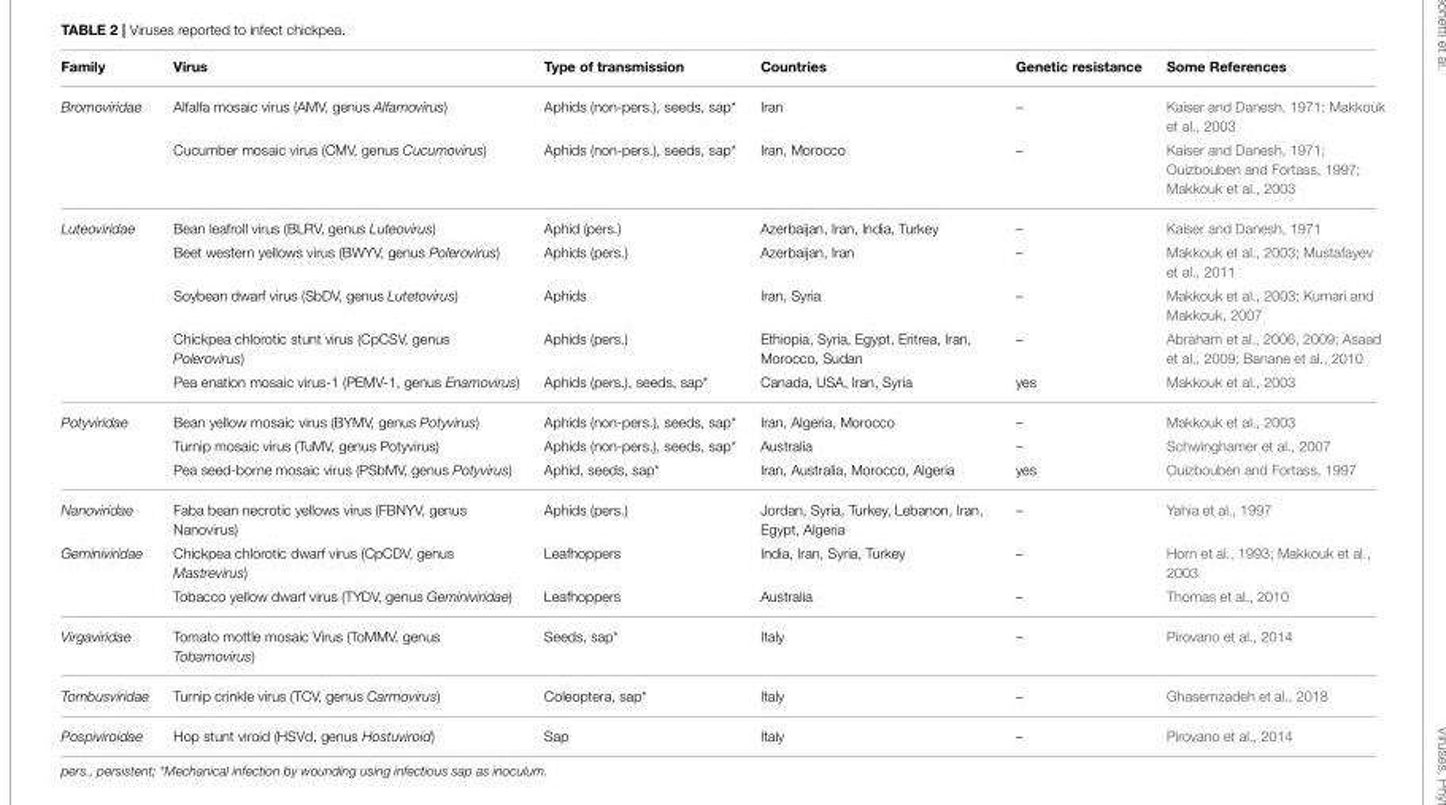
<table><thead><tr><td>Family</td><td>Virus</td><td>Type of transmission</td><td>Countries</td><td>Genetic resistance</td><td>Some References</td></tr></thead><tbody><tr><td rowspan="2">Bromoviridae</td><td>Alfalfa mosaic virus (AMV, genus Alfamovirus)</td><td>Aphids (non-pers.), seeds, sap*</td><td>Iran</td><td>–</td><td>Kaiser and Danesh, 1971; Makkouk et al., 2003</td></tr><tr><td>Cucumber mosaic virus (CMV, genus Cucumovirus)</td><td>Aphids (non-pers.), seeds, sap*</td><td>Iran, Morocco</td><td>–</td><td>Kaiser and Danesh, 1971; Ouizbouben and Fortass, 1997; Makkouk et al., 2003</td></tr><tr><td rowspan="5">Luteoviridae</td><td>Bean leafroll virus (BLRV, genus Luteovirus)</td><td>Aphid (pers.)</td><td>Azerbaijan, Iran, India, Turkey</td><td>–</td><td>Kaiser and Danesh, 1971</td></tr><tr><td>Beet western yellows virus (BWYV, genus Polerovirus)</td><td>Aphids (pers.)</td><td>Azerbaijan, Iran</td><td>–</td><td>Makkouk et al., 2003; Mustafayev et al., 2011</td></tr><tr><td>Soybean dwarf virus (SbDV, genus Lutetovirus)</td><td>Aphids</td><td>Iran, Syria</td><td>–</td><td>Makkouk et al., 2003; Kumari and Makkouk, 2007</td></tr><tr><td>Chickpea chlorotic stunt virus (CpCSV, genus Polerovirus)</td><td>Aphids (pers.)</td><td>Ethiopia, Syria, Egypt, Eritrea, Iran, Morocco, Sudan</td><td>–</td><td>Abraham et al., 2006, 2009; Asaad et al., 2009; Banane et al., 2010</td></tr><tr><td>Pea enation mosaic virus-1 (PEMV-1, genus Enamovirus)</td><td>Aphids (pers.), seeds, sap*</td><td>Canada, USA, Iran, Syria</td><td>yes</td><td>Makkouk et al., 2003</td></tr><tr><td rowspan="3">Potyviridae</td><td>Bean yellow mosaic virus (BYMV, genus Potyvirus)</td><td>Aphids (non-pers.), seeds, sap*</td><td>Iran, Algeria, Morocco</td><td>–</td><td>Makkouk et al., 2003</td></tr><tr><td>Turnip mosaic virus (TuMV, genus Potyvirus)</td><td>Aphids (non-pers.), seeds, sap*</td><td>Australia</td><td>–</td><td>Schwinghamer et al., 2007</td></tr><tr><td>Pea seed-borne mosaic virus (PSbMV, genus Potyvirus)</td><td>Aphid, seeds, sap*</td><td>Iran, Australia, Morocco, Algeria</td><td>yes</td><td>Ouizbouben and Fortass, 1997</td></tr><tr><td>Nanoviridae</td><td>Faba bean necrotic yellows virus (FBNYV, genus Nanovirus)</td><td>Aphids (pers.)</td><td>Jordan, Syria, Turkey, Lebanon, Iran, Egypt, Algeria</td><td>–</td><td>Yahia et al., 1997</td></tr><tr><td rowspan="2">Geminiviridae</td><td>Chickpea chlorotic dwarf virus (CpCDV, genus Mastrevirus)</td><td>Leafhoppers</td><td>India, Iran, Syria, Turkey</td><td>–</td><td>Horn et al., 1993; Makkouk et al., 2003</td></tr><tr><td>Tobacco yellow dwarf virus (TYDV, genus Geminiviridae)</td><td>Leafhoppers</td><td>Australia</td><td>–</td><td>Thomas et al., 2010</td></tr><tr><td>Virgaviridae</td><td>Tomato mottle mosaic Virus (ToMMV, genus Tobamovirus)</td><td>Seeds, sap*</td><td>Italy</td><td>–</td><td>Pirovano et al., 2014</td></tr><tr><td>Tombusviridae</td><td>Turnip crinkle virus (TCV, genus Carmovirus)</td><td>Coleoptera, sap*</td><td>Italy</td><td>–</td><td>Ghasemzadeh et al., 2018</td></tr><tr><td>Pospiviroidae</td><td>Hop stunt viroid (HSVd, genus Hostuviroid)</td><td>Sap</td><td>Italy</td><td>–</td><td>Pirovano et al., 2014</td></tr></tbody></table>